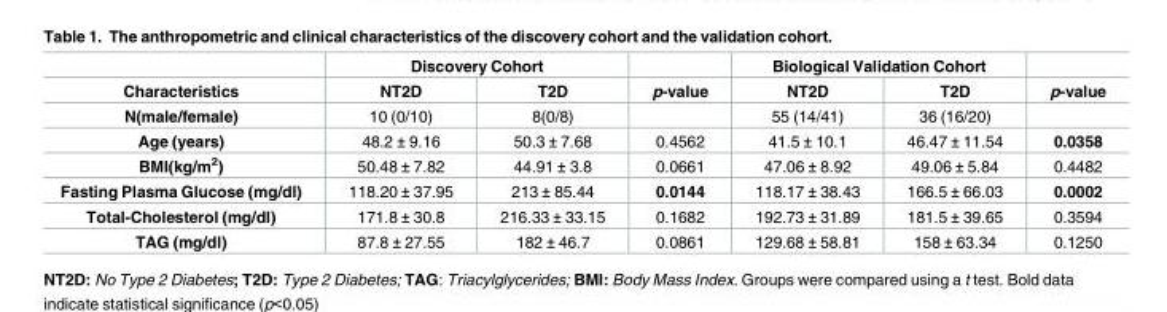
<table><thead><tr><td rowspan="2">Characteristics</td><td colspan="2">Discovery Cohort</td><td rowspan="2">p-value</td><td colspan="2">Biological Validation Cohort</td><td rowspan="2">p-value</td></tr><tr><td>NT2D</td><td>T2D</td><td>NT2D</td><td>T2D</td></tr></thead><tbody><tr><td>N(male/female)</td><td>10 (0/10)</td><td>8(0/8)</td><td></td><td>55 (14/41)</td><td>36 (16/20)</td><td></td></tr><tr><td>Age (years)</td><td>48.2 ± 9.16</td><td>50.3 ± 7.68</td><td>0.4562</td><td>41.5 ± 10.1</td><td>46.47 ± 11.54</td><td>0.0358</td></tr><tr><td>BMI(kg/m<sup>2</sup>)</td><td>50.48 ± 7.82</td><td>44.91 ± 3.8</td><td>0.0661</td><td>47.06 ± 8.92</td><td>49.06 ± 5.84</td><td>0.4482</td></tr><tr><td>Fasting Plasma Glucose (mg/dl)</td><td>118.20 ± 37.95</td><td>213 ± 85.44</td><td>0.0144</td><td>118.17 ± 38.43</td><td>166.5 ± 66.03</td><td>0.0002</td></tr><tr><td>Total-Cholesterol (mg/dl)</td><td>171.8 ± 30.8</td><td>216.33 ± 33.15</td><td>0.1682</td><td>192.73 ± 31.89</td><td>181.5 ± 39.65</td><td>0.3594</td></tr><tr><td>TAG (mg/dl)</td><td>87.8 ± 27.55</td><td>182 ± 46.7</td><td>0.0861</td><td>129.68 ± 58.81</td><td>158 ± 63.34</td><td>0.1250</td></tr></tbody></table>